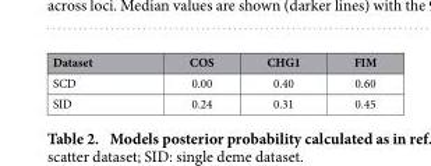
<table><thead><tr><td>Dataset</td><td>COS</td><td>CHG1</td><td>FIM</td></tr></thead><tbody><tr><td>SCD</td><td>0.00</td><td>0.40</td><td>0.60</td></tr><tr><td>SID</td><td>0.24</td><td>0.31</td><td>0.45</td></tr></tbody></table>